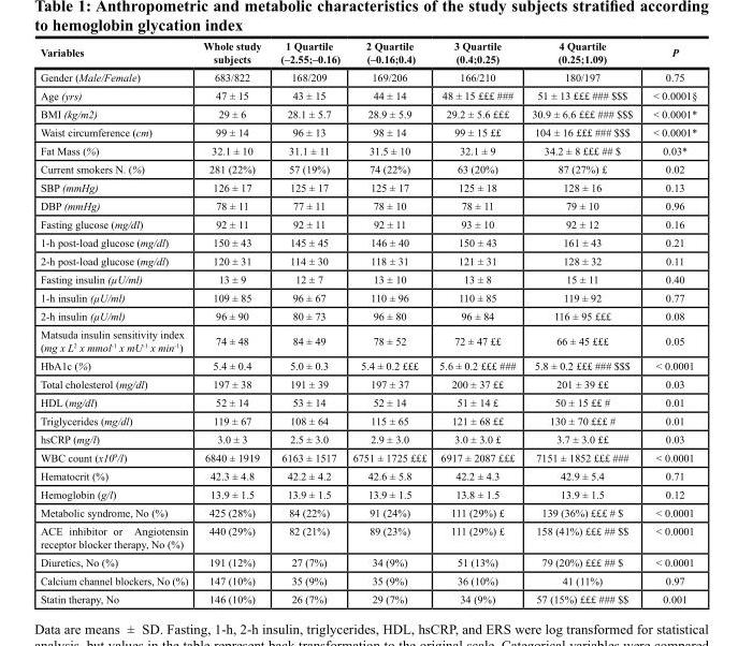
<table><thead><tr><td>Variables</td><td>Whole study subjects</td><td>1 Quartile (–2.55;–0.16)</td><td>2 Quartile (–0.16;0.4)</td><td>3 Quartile (0.4;0.25)</td><td>4 Quartile (0.25;1.09)</td><td>P</td></tr></thead><tbody><tr><td>Gender (Male/Female)</td><td>683/822</td><td>168/209</td><td>169/206</td><td>166/210</td><td>180/197</td><td>0.75</td></tr><tr><td>Age (yrs)</td><td>47 ± 15</td><td>43 ± 15</td><td>44 ± 14</td><td>48 ± 15 £££ ###</td><td>51 ± 13 £££ ### $$$</td><td>&lt; 0.0001§</td></tr><tr><td>BMI (kg/m2)</td><td>29 ± 6</td><td>28.1 ± 5.7</td><td>28.9 ± 5.9</td><td>29.2 ± 5.6 £££</td><td>30.9 ± 6.6 £££ ### $$$</td><td>&lt; 0.0001*</td></tr><tr><td>Waist circumference (cm)</td><td>99 ± 14</td><td>96 ± 13</td><td>98 ± 14</td><td>99 ± 15 ££</td><td>104 ± 16 £££ ### $$$</td><td>&lt; 0.0001*</td></tr><tr><td>Fat Mass (%)</td><td>32.1 ± 10</td><td>31.1 ± 11</td><td>31.5 ± 10</td><td>32.1 ± 9</td><td>34.2 ± 8 £££ ## $</td><td>0.03*</td></tr><tr><td>Current smokers N. (%)</td><td>281 (22%)</td><td>57 (19%)</td><td>74 (22%)</td><td>63 (20%)</td><td>87 (27%) £</td><td>0.02</td></tr><tr><td>SBP (mmHg)</td><td>126 ± 17</td><td>125 ± 17</td><td>125 ± 17</td><td>125 ± 18</td><td>128 ± 16</td><td>0.13</td></tr><tr><td>DBP (mmHg)</td><td>78 ± 11</td><td>77 ± 11</td><td>78 ± 10</td><td>78 ± 11</td><td>79 ± 10</td><td>0.96</td></tr><tr><td>Fasting glucose (mg/dl)</td><td>92 ± 11</td><td>92 ± 11</td><td>92 ± 11</td><td>93 ± 10</td><td>92 ± 12</td><td>0.16</td></tr><tr><td>1-h post-load glucose (mg/dl)</td><td>150 ± 43</td><td>145 ± 45</td><td>146 ± 40</td><td>150 ± 43</td><td>161 ± 43</td><td>0.21</td></tr><tr><td>2-h post-load glucose (mg/dl)</td><td>120 ± 31</td><td>114 ± 30</td><td>118 ± 31</td><td>121 ± 31</td><td>128 ± 32</td><td>0.11</td></tr><tr><td>Fasting insulin (µU/ml)</td><td>13 ± 9</td><td>12 ± 7</td><td>13 ± 10</td><td>13 ± 8</td><td>15 ± 11</td><td>0.40</td></tr><tr><td>1-h insulin (µU/ml)</td><td>109 ± 85</td><td>96 ± 67</td><td>110 ± 96</td><td>110 ± 85</td><td>119 ± 92</td><td>0.77</td></tr><tr><td>2-h insulin (µU/ml)</td><td>96 ± 90</td><td>80 ± 73</td><td>96 ± 80</td><td>96 ± 84</td><td>116 ± 95 £££</td><td>0.08</td></tr><tr><td>Matsuda insulin sensitivity index (mg x L<sup>2</sup> x mmol<sup>-1</sup> x mU<sup>-1</sup> x min<sup>-1</sup>)</td><td>74 ± 48</td><td>84 ± 49</td><td>78 ± 52</td><td>72 ± 47 ££</td><td>66 ± 45 £££</td><td>0.05</td></tr><tr><td>HbA1c (%)</td><td>5.4 ± 0.4</td><td>5.0 ± 0.3</td><td>5.4 ± 0.2 £££</td><td>5.6 ± 0.2 £££ ###</td><td>5.8 ± 0.2 £££ ### $$$</td><td>&lt; 0.0001</td></tr><tr><td>Total cholesterol (mg/dl)</td><td>197 ± 38</td><td>191 ± 39</td><td>197 ± 37</td><td>200 ± 37 ££</td><td>201 ± 39 ££</td><td>0.03</td></tr><tr><td>HDL (mg/dl)</td><td>52 ± 14</td><td>53 ± 14</td><td>52 ± 14</td><td>51 ± 14 £</td><td>50 ± 15 ££ #</td><td>0.01</td></tr><tr><td>Triglycerides (mg/dl)</td><td>119 ± 67</td><td>108 ± 64</td><td>115 ± 65</td><td>121 ± 68 ££</td><td>130 ± 70 £££ #</td><td>0.01</td></tr><tr><td>hsCRP (mg/l)</td><td>3.0 ± 3</td><td>2.5 ± 3.0</td><td>2.9 ± 3.0</td><td>3.0 ± 3.0 £</td><td>3.7 ± 3.0 ££</td><td>0.03</td></tr><tr><td>WBC count (x10<sup>9</sup>/l)</td><td>6840 ± 1919</td><td>6163 ± 1517</td><td>6751 ± 1725 £££</td><td>6917 ± 2087 £££</td><td>7151 ± 1852 £££ ###</td><td>&lt; 0.0001</td></tr><tr><td>Hematocrit (%)</td><td>42.3 ± 4.8</td><td>42.2 ± 4.2</td><td>42.6 ± 5.8</td><td>42.2 ± 4.3</td><td>42.9 ± 5.4</td><td>0.71</td></tr><tr><td>Hemoglobin (g/l)</td><td>13.9 ± 1.5</td><td>13.9 ± 1.5</td><td>13.9 ± 1.5</td><td>13.8 ± 1.5</td><td>13.9 ± 1.5</td><td>0.12</td></tr><tr><td>Metabolic syndrome, No (%)</td><td>425 (28%)</td><td>84 (22%)</td><td>91 (24%)</td><td>111 (29%) £</td><td>139 (36%) £££ # $</td><td>&lt; 0.0001</td></tr><tr><td>ACE inhibitor or Angiotensin receptor blocker therapy, No (%)</td><td>440 (29%)</td><td>82 (21%)</td><td>89 (23%)</td><td>111 (29%) £</td><td>158 (41%) £££ ## $$</td><td>&lt; 0.0001</td></tr><tr><td>Diuretics, No (%)</td><td>191 (12%)</td><td>27 (7%)</td><td>34 (9%)</td><td>51 (13%)</td><td>79 (20%) £££ ## $</td><td>&lt; 0.0001</td></tr><tr><td>Calcium channel blockers, No (%)</td><td>147 (10%)</td><td>35 (9%)</td><td>35 (9%)</td><td>36 (10%)</td><td>41 (11%)</td><td>0.97</td></tr><tr><td>Statin therapy, No</td><td>146 (10%)</td><td>26 (7%)</td><td>29 (7%)</td><td>34 (9%)</td><td>57 (15%) £££ ### $$</td><td>0.001</td></tr></tbody></table>